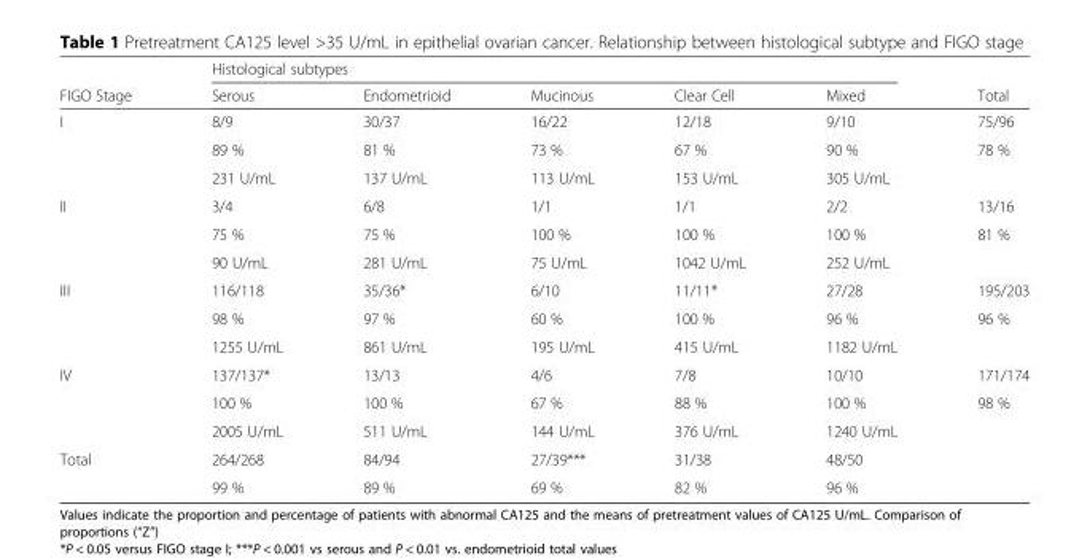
<table><thead><tr><td rowspan="2">FIGO Stage</td><td colspan="5">Histological subtypes</td><td rowspan="2">Total</td></tr><tr><td>Serous</td><td>Endometrioid</td><td>Mucinous</td><td>Clear Cell</td><td>Mixed</td></tr></thead><tbody><tr><td rowspan="3">I</td><td>8/9</td><td>30/37</td><td>16/22</td><td>12/18</td><td>9/10</td><td>75/96</td></tr><tr><td>89 %</td><td>81 %</td><td>73 %</td><td>67 %</td><td>90 %</td><td>78 %</td></tr><tr><td>231 U/mL</td><td>137 U/mL</td><td>113 U/mL</td><td>153 U/mL</td><td>305 U/mL</td><td></td></tr><tr><td rowspan="3">II</td><td>3/4</td><td>6/8</td><td>1/1</td><td>1/1</td><td>2/2</td><td>13/16</td></tr><tr><td>75 %</td><td>75 %</td><td>100 %</td><td>100 %</td><td>100 %</td><td>81 %</td></tr><tr><td>90 U/mL</td><td>281 U/mL</td><td>75 U/mL</td><td>1042 U/mL</td><td>252 U/mL</td><td></td></tr><tr><td rowspan="3">III</td><td>116/118</td><td>35/36*</td><td>6/10</td><td>11/11*</td><td>27/28</td><td>195/203</td></tr><tr><td>98 %</td><td>97 %</td><td>60 %</td><td>100 %</td><td>96 %</td><td>96 %</td></tr><tr><td>1255 U/mL</td><td>861 U/mL</td><td>195 U/mL</td><td>415 U/mL</td><td>1182 U/mL</td><td></td></tr><tr><td rowspan="3">IV</td><td>137/137*</td><td>13/13</td><td>4/6</td><td>7/8</td><td>10/10</td><td>171/174</td></tr><tr><td>100 %</td><td>100 %</td><td>67 %</td><td>88 %</td><td>100 %</td><td>98 %</td></tr><tr><td>2005 U/mL</td><td>511 U/mL</td><td>144 U/mL</td><td>376 U/mL</td><td>1240 U/mL</td><td></td></tr><tr><td rowspan="2">Total</td><td>264/268</td><td>84/94</td><td>27/39***</td><td>31/38</td><td>48/50</td><td></td></tr><tr><td>99 %</td><td>89 %</td><td>69 %</td><td>82 %</td><td>96 %</td><td></td></tr></tbody></table>